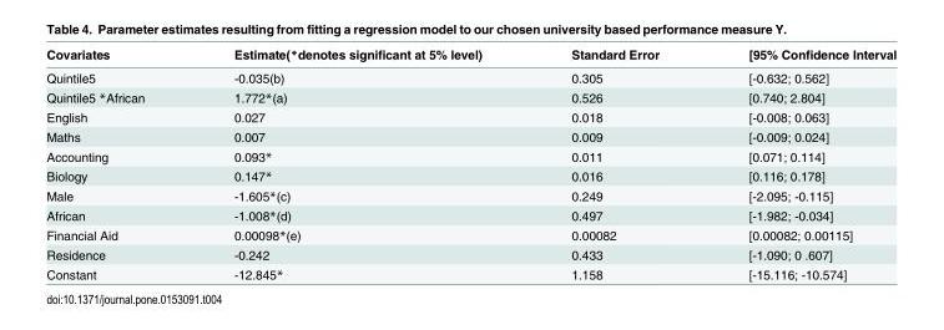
<table><thead><tr><td>Covariates</td><td>Estimate(*denotes significant at 5% level)</td><td>Standard Error</td><td>[95% Confidence Interval</td></tr></thead><tbody><tr><td>Quintile5</td><td>-0.035(b)</td><td>0.305</td><td>[-0.632; 0.562]</td></tr><tr><td>Quintile5 *African</td><td>1.772*(a)</td><td>0.526</td><td>[0.740; 2.804]</td></tr><tr><td>English</td><td>0.027</td><td>0.018</td><td>[-0.008; 0.063]</td></tr><tr><td>Maths</td><td>0.007</td><td>0.009</td><td>[-0.009; 0.024]</td></tr><tr><td>Accounting</td><td>0.093*</td><td>0.011</td><td>[0.071; 0.114]</td></tr><tr><td>Biology</td><td>0.147*</td><td>0.016</td><td>[0.116; 0.178]</td></tr><tr><td>Male</td><td>-1.605*(c)</td><td>0.249</td><td>[-2.095; -0.115]</td></tr><tr><td>African</td><td>-1.008*(d)</td><td>0.497</td><td>[-1.982; -0.034]</td></tr><tr><td>Financial Aid</td><td>0.00098*(e)</td><td>0.00082</td><td>[0.00082; 0.00115]</td></tr><tr><td>Residence</td><td>-0.242</td><td>0.433</td><td>[-1.090; 0 .607]</td></tr><tr><td>Constant</td><td>-12.845*</td><td>1.158</td><td>[-15.116; -10.574]</td></tr></tbody></table>